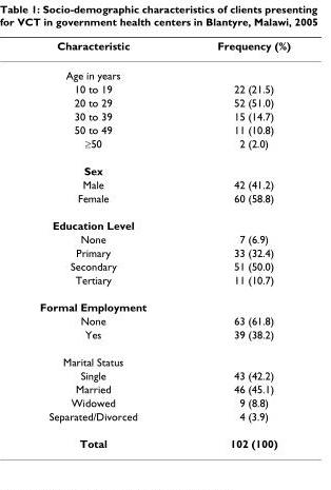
<table><thead><tr><td>Characteristic</td><td>Frequency (%)</td></tr></thead><tbody><tr><td colspan="2">Age in years</td></tr><tr><td>10 to 19</td><td>22 (21.5)</td></tr><tr><td>20 to 29</td><td>52 (51.0)</td></tr><tr><td>30 to 39</td><td>15 (14.7)</td></tr><tr><td>50 to 49</td><td>11 (10.8)</td></tr><tr><td>≥50</td><td>2 (2.0)</td></tr><tr><td colspan="2">Sex</td></tr><tr><td>Male</td><td>42 (41.2)</td></tr><tr><td>Female</td><td>60 (58.8)</td></tr><tr><td colspan="2">Education Level</td></tr><tr><td>None</td><td>7 (6.9)</td></tr><tr><td>Primary</td><td>33 (32.4)</td></tr><tr><td>Secondary</td><td>51 (50.0)</td></tr><tr><td>Tertiary</td><td>11 (10.7)</td></tr><tr><td colspan="2">Formal Employment</td></tr><tr><td>None</td><td>63 (61.8)</td></tr><tr><td>Yes</td><td>39 (38.2)</td></tr><tr><td colspan="2">Marital Status</td></tr><tr><td>Single</td><td>43 (42.2)</td></tr><tr><td>Married</td><td>46 (45.1)</td></tr><tr><td>Widowed</td><td>9 (8.8)</td></tr><tr><td>Separated/Divorced</td><td>4 (3.9)</td></tr><tr><td>Total</td><td>102 (100)</td></tr></tbody></table>